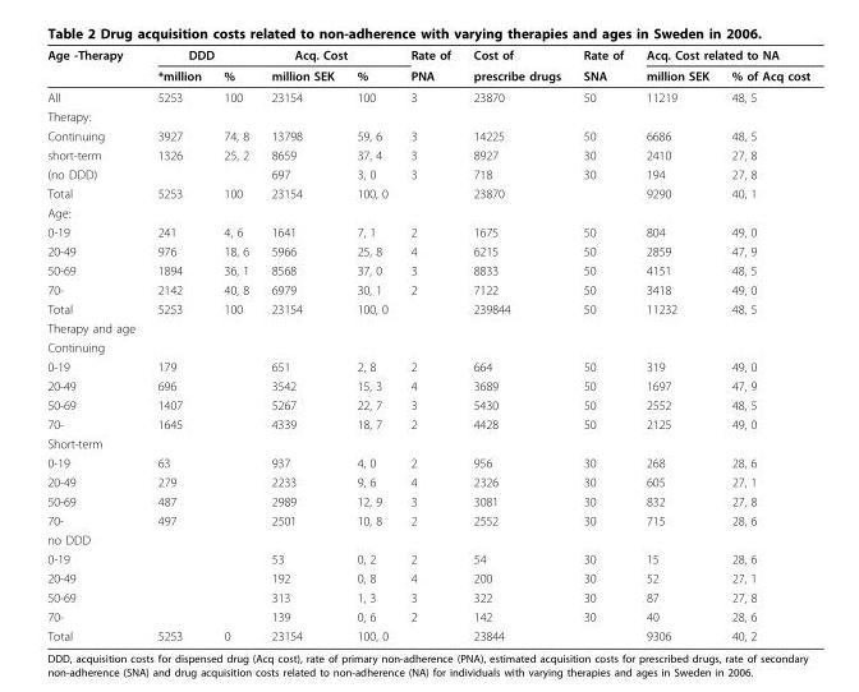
<table><thead><tr><td rowspan="2">Age -Therapy</td><td rowspan="2">DDD *million</td><td rowspan="2">%</td><td rowspan="2">Acq. Cost million SEK</td><td rowspan="2">%</td><td rowspan="2">Rate of PNA</td><td rowspan="2">Cost of prescribe drugs</td><td rowspan="2">Rate of SNA</td><td colspan="2">Acq. Cost related to NA</td></tr><tr><td>million SEK</td><td>% of Acq cost</td></tr></thead><tbody><tr><td>All</td><td>5253</td><td>100</td><td>23154</td><td>100</td><td>3</td><td>23870</td><td>50</td><td>11219</td><td>48, 5</td></tr><tr><td colspan="10">Therapy:</td></tr><tr><td>Continuing</td><td>3927</td><td>74, 8</td><td>13798</td><td>59, 6</td><td>3</td><td>14225</td><td>50</td><td>6686</td><td>48, 5</td></tr><tr><td>short-term</td><td>1326</td><td>25, 2</td><td>8659</td><td>37, 4</td><td>3</td><td>8927</td><td>30</td><td>2410</td><td>27, 8</td></tr><tr><td>(no DDD)</td><td></td><td></td><td>697</td><td>3, 0</td><td>3</td><td>718</td><td>30</td><td>194</td><td>27, 8</td></tr><tr><td>Total</td><td>5253</td><td>100</td><td>23154</td><td>100, 0</td><td></td><td>23870</td><td></td><td>9290</td><td>40, 1</td></tr><tr><td colspan="10">Age:</td></tr><tr><td>0-19</td><td>241</td><td>4, 6</td><td>1641</td><td>7, 1</td><td>2</td><td>1675</td><td>50</td><td>804</td><td>49, 0</td></tr><tr><td>20-49</td><td>976</td><td>18, 6</td><td>5966</td><td>25, 8</td><td>4</td><td>6215</td><td>50</td><td>2859</td><td>47, 9</td></tr><tr><td>50-69</td><td>1894</td><td>36, 1</td><td>8568</td><td>37, 0</td><td>3</td><td>8833</td><td>50</td><td>4151</td><td>48, 5</td></tr><tr><td>70-</td><td>2142</td><td>40, 8</td><td>6979</td><td>30, 1</td><td>2</td><td>7122</td><td>50</td><td>3418</td><td>49, 0</td></tr><tr><td>Total</td><td>5253</td><td>100</td><td>23154</td><td>100, 0</td><td></td><td>239844</td><td>50</td><td>11232</td><td>48, 5</td></tr><tr><td colspan="10">Therapy and age</td></tr><tr><td colspan="10">Continuing</td></tr><tr><td>0-19</td><td>179</td><td></td><td>651</td><td>2, 8</td><td>2</td><td>664</td><td>50</td><td>319</td><td>49, 0</td></tr><tr><td>20-49</td><td>696</td><td></td><td>3542</td><td>15, 3</td><td>4</td><td>3689</td><td>50</td><td>1697</td><td>47, 9</td></tr><tr><td>50-69</td><td>1407</td><td></td><td>5267</td><td>22, 7</td><td>3</td><td>5430</td><td>50</td><td>2552</td><td>48, 5</td></tr><tr><td>70-</td><td>1645</td><td></td><td>4339</td><td>18, 7</td><td>2</td><td>4428</td><td>50</td><td>2125</td><td>49, 0</td></tr><tr><td colspan="10">Short-term</td></tr><tr><td>0-19</td><td>63</td><td></td><td>937</td><td>4, 0</td><td>2</td><td>956</td><td>30</td><td>268</td><td>28, 6</td></tr><tr><td>20-49</td><td>279</td><td></td><td>2233</td><td>9, 6</td><td>4</td><td>2326</td><td>30</td><td>605</td><td>27, 1</td></tr><tr><td>50-69</td><td>487</td><td></td><td>2989</td><td>12, 9</td><td>3</td><td>3081</td><td>30</td><td>832</td><td>27, 8</td></tr><tr><td>70-</td><td>497</td><td></td><td>2501</td><td>10, 8</td><td>2</td><td>2552</td><td>30</td><td>715</td><td>28, 6</td></tr><tr><td colspan="10">no DDD</td></tr><tr><td>0-19</td><td></td><td></td><td>53</td><td>0, 2</td><td>2</td><td>54</td><td>30</td><td>15</td><td>28, 6</td></tr><tr><td>20-49</td><td></td><td></td><td>192</td><td>0, 8</td><td>4</td><td>200</td><td>30</td><td>52</td><td>27, 1</td></tr><tr><td>50-69</td><td></td><td></td><td>313</td><td>1, 3</td><td>3</td><td>322</td><td>30</td><td>87</td><td>27, 8</td></tr><tr><td>70-</td><td></td><td></td><td>139</td><td>0, 6</td><td>2</td><td>142</td><td>30</td><td>40</td><td>28, 6</td></tr><tr><td>Total</td><td>5253</td><td>0</td><td>23154</td><td>100, 0</td><td></td><td>23844</td><td></td><td>9306</td><td>40, 2</td></tr></tbody></table>